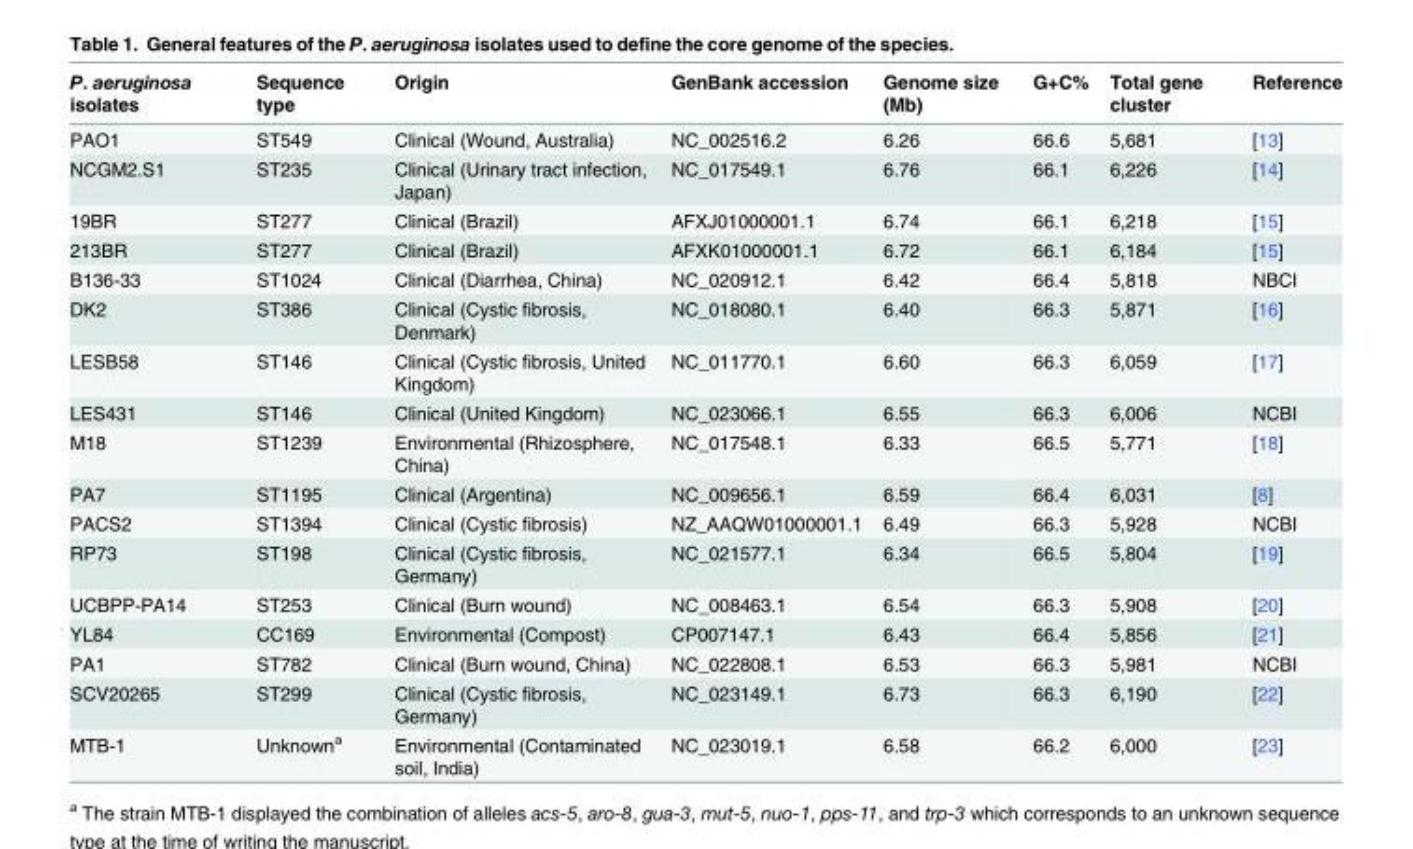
<table><thead><tr><td>P. aeruginosa isolates</td><td>Sequence type</td><td>Origin</td><td>GenBank accession</td><td>Genome size (Mb)</td><td>G+C%</td><td>Total gene cluster</td><td>Reference</td></tr></thead><tbody><tr><td>PAO1</td><td>ST549</td><td>Clinical (Wound, Australia)</td><td>NC_002516.2</td><td>6.26</td><td>66.6</td><td>5,681</td><td>[13]</td></tr><tr><td>NCGM2.S1</td><td>ST235</td><td>Clinical (Urinary tract infection, Japan)</td><td>NC_017549.1</td><td>6.76</td><td>66.1</td><td>6,226</td><td>[14]</td></tr><tr><td>19BR</td><td>ST277</td><td>Clinical (Brazil)</td><td>AFXJ01000001.1</td><td>6.74</td><td>66.1</td><td>6,218</td><td>[15]</td></tr><tr><td>213BR</td><td>ST277</td><td>Clinical (Brazil)</td><td>AFXK01000001.1</td><td>6.72</td><td>66.1</td><td>6,184</td><td>[15]</td></tr><tr><td>B136-33</td><td>ST1024</td><td>Clinical (Diarrhea, China)</td><td>NC_020912.1</td><td>6.42</td><td>66.4</td><td>5,818</td><td>NBCI</td></tr><tr><td>DK2</td><td>ST386</td><td>Clinical (Cystic fibrosis, Denmark)</td><td>NC_018080.1</td><td>6.40</td><td>66.3</td><td>5,871</td><td>[16]</td></tr><tr><td>LESB58</td><td>ST146</td><td>Clinical (Cystic fibrosis, United Kingdom)</td><td>NC_011770.1</td><td>6.60</td><td>66.3</td><td>6,059</td><td>[17]</td></tr><tr><td>LES431</td><td>ST146</td><td>Clinical (United Kingdom)</td><td>NC_023066.1</td><td>6.55</td><td>66.3</td><td>6,006</td><td>NCBI</td></tr><tr><td>M18</td><td>ST1239</td><td>Environmental (Rhizosphere, China)</td><td>NC_017548.1</td><td>6.33</td><td>66.5</td><td>5,771</td><td>[18]</td></tr><tr><td>PA7</td><td>ST1195</td><td>Clinical (Argentina)</td><td>NC_009656.1</td><td>6.59</td><td>66.4</td><td>6,031</td><td>[8]</td></tr><tr><td>PACS2</td><td>ST1394</td><td>Clinical (Cystic fibrosis)</td><td>NZ_AAQW01000001.1</td><td>6.49</td><td>66.3</td><td>5,928</td><td>NCBI</td></tr><tr><td>RP73</td><td>ST198</td><td>Clinical (Cystic fibrosis, Germany)</td><td>NC_021577.1</td><td>6.34</td><td>66.5</td><td>5,804</td><td>[19]</td></tr><tr><td>UCBPP-PA14</td><td>ST253</td><td>Clinical (Burn wound)</td><td>NC_008463.1</td><td>6.54</td><td>66.3</td><td>5,908</td><td>[20]</td></tr><tr><td>YL84</td><td>CC169</td><td>Environmental (Compost)</td><td>CP007147.1</td><td>6.43</td><td>66.4</td><td>5,856</td><td>[21]</td></tr><tr><td>PA1</td><td>ST782</td><td>Clinical (Burn wound, China)</td><td>NC_022808.1</td><td>6.53</td><td>66.3</td><td>5,981</td><td>NCBI</td></tr><tr><td>SCV20265</td><td>ST299</td><td>Clinical (Cystic fibrosis, Germany)</td><td>NC_023149.1</td><td>6.73</td><td>66.3</td><td>6,190</td><td>[22]</td></tr><tr><td>MTB-1</td><td>Unknown<sup>a</sup></td><td>Environmental (Contaminated soil, India)</td><td>NC_023019.1</td><td>6.58</td><td>66.2</td><td>6,000</td><td>[23]</td></tr></tbody></table>